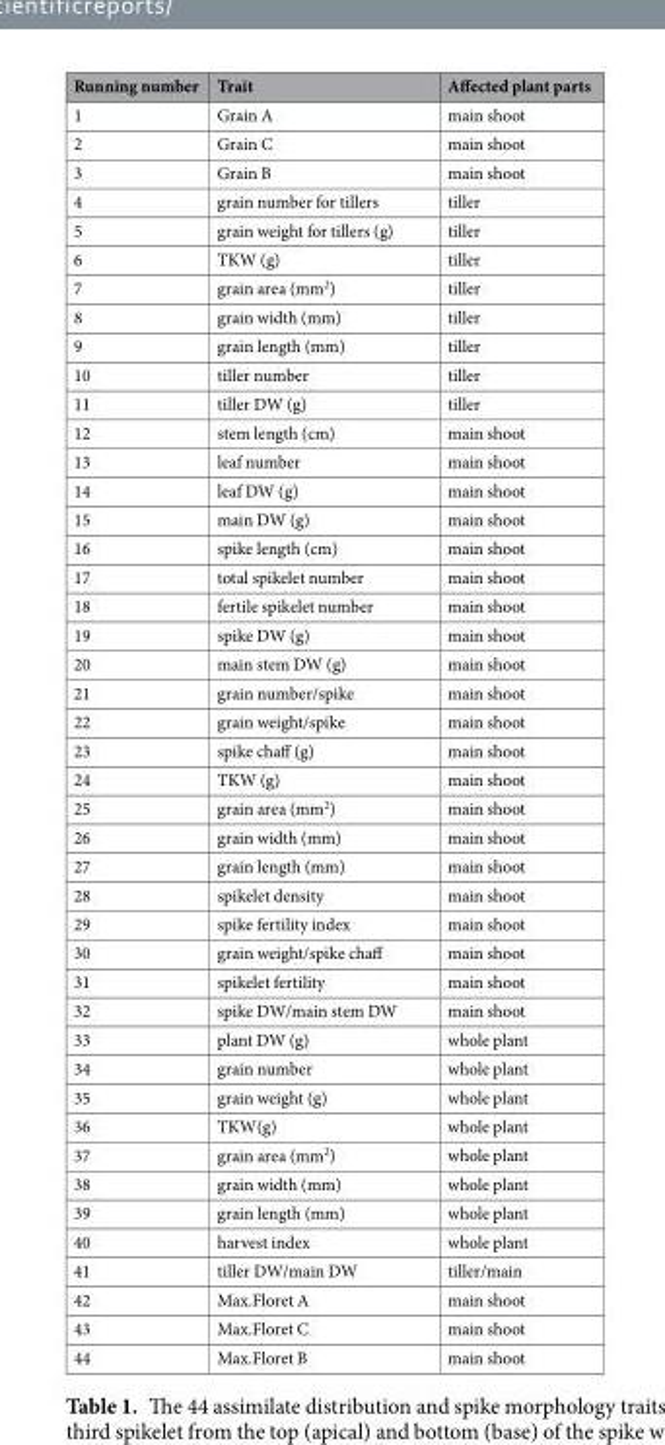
<table><thead><tr><td>Running number</td><td>Trait</td><td>Affected plant parts</td></tr></thead><tbody><tr><td>1</td><td>Grain A</td><td>main shoot</td></tr><tr><td>2</td><td>Grain C</td><td>main shoot</td></tr><tr><td>3</td><td>Grain B</td><td>main shoot</td></tr><tr><td>4</td><td>grain number for tillers</td><td>tiller</td></tr><tr><td>5</td><td>grain weight for tillers (g)</td><td>tiller</td></tr><tr><td>6</td><td>TKW (g)</td><td>tiller</td></tr><tr><td>7</td><td>grain area (mm<sup>2</sup>)</td><td>tiller</td></tr><tr><td>8</td><td>grain width (mm)</td><td>tiller</td></tr><tr><td>9</td><td>grain length (mm)</td><td>tiller</td></tr><tr><td>10</td><td>tiller number</td><td>tiller</td></tr><tr><td>11</td><td>tiller DW (g)</td><td>tiller</td></tr><tr><td>12</td><td>stem length (cm)</td><td>main shoot</td></tr><tr><td>13</td><td>leaf number</td><td>main shoot</td></tr><tr><td>14</td><td>leaf DW (g)</td><td>main shoot</td></tr><tr><td>15</td><td>main DW (g)</td><td>main shoot</td></tr><tr><td>16</td><td>spike length (cm)</td><td>main shoot</td></tr><tr><td>17</td><td>total spikelet number</td><td>main shoot</td></tr><tr><td>18</td><td>fertile spikelet number</td><td>main shoot</td></tr><tr><td>19</td><td>spike DW (g)</td><td>main shoot</td></tr><tr><td>20</td><td>main stem DW (g)</td><td>main shoot</td></tr><tr><td>21</td><td>grain number/spike</td><td>main shoot</td></tr><tr><td>22</td><td>grain weight/spike</td><td>main shoot</td></tr><tr><td>23</td><td>spike chaff (g)</td><td>main shoot</td></tr><tr><td>24</td><td>TKW (g)</td><td>main shoot</td></tr><tr><td>25</td><td>grain area (mm<sup>2</sup>)</td><td>main shoot</td></tr><tr><td>26</td><td>grain width (mm)</td><td>main shoot</td></tr><tr><td>27</td><td>grain length (mm)</td><td>main shoot</td></tr><tr><td>28</td><td>spikelet density</td><td>main shoot</td></tr><tr><td>29</td><td>spike fertility index</td><td>main shoot</td></tr><tr><td>30</td><td>grain weight/spike chaff</td><td>main shoot</td></tr><tr><td>31</td><td>spikelet fertility</td><td>main shoot</td></tr><tr><td>32</td><td>spike DW/main stem DW</td><td>main shoot</td></tr><tr><td>33</td><td>plant DW (g)</td><td>whole plant</td></tr><tr><td>34</td><td>grain number</td><td>whole plant</td></tr><tr><td>35</td><td>grain weight (g)</td><td>whole plant</td></tr><tr><td>36</td><td>TKW(g)</td><td>whole plant</td></tr><tr><td>37</td><td>grain area (mm<sup>2</sup>)</td><td>whole plant</td></tr><tr><td>38</td><td>grain width (mm)</td><td>whole plant</td></tr><tr><td>39</td><td>grain length (mm)</td><td>whole plant</td></tr><tr><td>40</td><td>harvest index</td><td>whole plant</td></tr><tr><td>41</td><td>tiller DW/main DW</td><td>tiller/main</td></tr><tr><td>42</td><td>Max.Floret A</td><td>main shoot</td></tr><tr><td>43</td><td>Max.Floret C</td><td>main shoot</td></tr><tr><td>44</td><td>Max.Floret B</td><td>main shoot</td></tr></tbody></table>